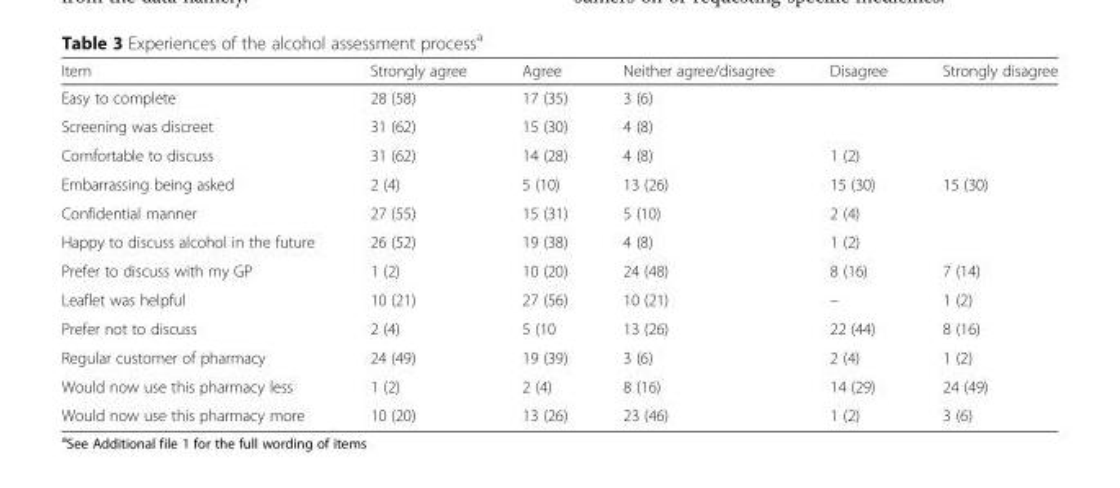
<table><thead><tr><td>Item</td><td>Strongly agree</td><td>Agree</td><td>Neither agree/disagree</td><td>Disagree</td><td>Strongly disagree</td></tr></thead><tbody><tr><td>Easy to complete</td><td>28 (58)</td><td>17 (35)</td><td>3 (6)</td><td></td><td></td></tr><tr><td>Screening was discreet</td><td>31 (62)</td><td>15 (30)</td><td>4 (8)</td><td></td><td></td></tr><tr><td>Comfortable to discuss</td><td>31 (62)</td><td>14 (28)</td><td>4 (8)</td><td>1 (2)</td><td></td></tr><tr><td>Embarrassing being asked</td><td>2 (4)</td><td>5 (10)</td><td>13 (26)</td><td>15 (30)</td><td>15 (30)</td></tr><tr><td>Confidential manner</td><td>27 (55)</td><td>15 (31)</td><td>5 (10)</td><td>2 (4)</td><td></td></tr><tr><td>Happy to discuss alcohol in the future</td><td>26 (52)</td><td>19 (38)</td><td>4 (8)</td><td>1 (2)</td><td></td></tr><tr><td>Prefer to discuss with my GP</td><td>1 (2)</td><td>10 (20)</td><td>24 (48)</td><td>8 (16)</td><td>7 (14)</td></tr><tr><td>Leaflet was helpful</td><td>10 (21)</td><td>27 (56)</td><td>10 (21)</td><td>–</td><td>1 (2)</td></tr><tr><td>Prefer not to discuss</td><td>2 (4)</td><td>5 (10</td><td>13 (26)</td><td>22 (44)</td><td>8 (16)</td></tr><tr><td>Regular customer of pharmacy</td><td>24 (49)</td><td>19 (39)</td><td>3 (6)</td><td>2 (4)</td><td>1 (2)</td></tr><tr><td>Would now use this pharmacy less</td><td>1 (2)</td><td>2 (4)</td><td>8 (16)</td><td>14 (29)</td><td>24 (49)</td></tr><tr><td>Would now use this pharmacy more</td><td>10 (20)</td><td>13 (26)</td><td>23 (46)</td><td>1 (2)</td><td>3 (6)</td></tr></tbody></table>